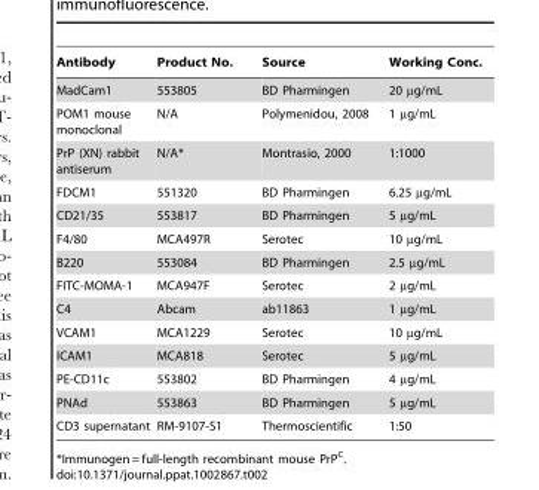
<table><thead><tr><td>Antibody</td><td>Product No.</td><td>Source</td><td>Working Conc.</td></tr></thead><tbody><tr><td>MadCam1</td><td>553805</td><td>BD Pharmingen</td><td>20 µg/mL</td></tr><tr><td>POM1 mouse monoclonal</td><td>N/A</td><td>Polymenidou, 2008</td><td>1 µg/mL</td></tr><tr><td>PrP (XN) rabbit antiserum</td><td>N/A*</td><td>Montrasio, 2000</td><td>1:1000</td></tr><tr><td>FDCM1</td><td>551320</td><td>BD Pharmingen</td><td>6.25 µg/mL</td></tr><tr><td>CD21/35</td><td>553817</td><td>BD Pharmingen</td><td>5 µg/mL</td></tr><tr><td>F4/80</td><td>MCA497R</td><td>Serotec</td><td>10 µg/mL</td></tr><tr><td>B220</td><td>553084</td><td>BD Pharmingen</td><td>2.5 µg/mL</td></tr><tr><td>FITC-MOMA-1</td><td>MCA947F</td><td>Serotec</td><td>2 µg/mL</td></tr><tr><td>C4</td><td>Abcam</td><td>ab11863</td><td>1 µg/mL</td></tr><tr><td>VCAM1</td><td>MCA1229</td><td>Serotec</td><td>10 µg/mL</td></tr><tr><td>ICAM1</td><td>MCA818</td><td>Serotec</td><td>5 µg/mL</td></tr><tr><td>PE-CD11c</td><td>553802</td><td>BD Pharmingen</td><td>4 µg/mL</td></tr><tr><td>PNAd</td><td>553863</td><td>BD Pharmingen</td><td>5 µg/mL</td></tr><tr><td>CD3 supernatant</td><td>RM-9107-S1</td><td>Thermoscientific</td><td>1:50</td></tr></tbody></table>